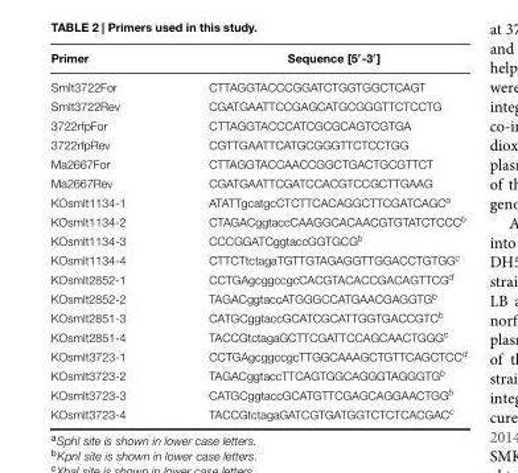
<table><thead><tr><td>Primer</td><td>Sequence [5′-3′]</td></tr></thead><tbody><tr><td>Smlt3722For</td><td>CTTAGGTACCCGGATCTGGTGGCTCAGT</td></tr><tr><td>Smlt3722Rev</td><td>CGATGAATTCCGAGCATGCGGGTTCTCCTG</td></tr><tr><td>3722rfpFor</td><td>CTTAGGTACCCATCGCGCAGTCGTGA</td></tr><tr><td>3722rfpRev</td><td>CGTTGAATTCATGCGGGTTCTCCTGG</td></tr><tr><td>Ma2667For</td><td>CTTAGGTACCAACCGGCTGACTGCGTTCT</td></tr><tr><td>Ma2667Rev</td><td>CGATGAATTCGATCCACGTCCGCTTGAAG</td></tr><tr><td>KOsmlt1134-1</td><td>ATATTgcatgcCTCTTCACAGGCTTCGATCAGC<sup>a</sup></td></tr><tr><td>KOsmlt1134-2</td><td>CTAGACggtaccCAAGGCACAACGTGTATCTCCC<sup>b</sup></td></tr><tr><td>KOsmlt1134-3</td><td>CCCGGATCggtaccGGTGCG<sup>b</sup></td></tr><tr><td>KOsmlt1134-4</td><td>CTTCTtctagaTGTTGTAGAGGTTGGACCTGTGG<sup>c</sup></td></tr><tr><td>KOsmlt2852-1</td><td>CCTGAgcggccgcCACGTACACCGACAGTTCG<sup>d</sup></td></tr><tr><td>KOsmlt2852-2</td><td>TAGACggtaccATGGGCCATGAACGAGGTG<sup>b</sup></td></tr><tr><td>KOsmlt2851-3</td><td>CATGCggtaccGCATCGCATTGGTGACCGTC<sup>b</sup></td></tr><tr><td>KOsmlt2851-4</td><td>TACCGtctagaGCTTCGATTCCAGCAACTGGG<sup>c</sup></td></tr><tr><td>KOsmlt3723-1</td><td>CCTGAgcggccgcTTGGCAAAGCTGTTCAGCTCC<sup>d</sup></td></tr><tr><td>KOsmlt3723-2</td><td>TAGACggtaccTTCAGTGGCAGGGTAGGGTG<sup>b</sup></td></tr><tr><td>KOsmlt3723-3</td><td>CATGCggtaccGCATGTTCGAGCAGGAACTGG<sup>b</sup></td></tr><tr><td>KOsmlt3723-4</td><td>TACCGtctagaGATCGTGATGGTCTCTCACGAC<sup>c</sup></td></tr></tbody></table>